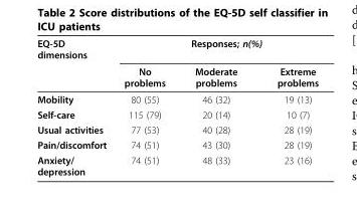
<table><thead><tr><td rowspan="2">EQ-5D dimensions</td><td colspan="3">Responses; n(%)</td></tr><tr><td>No problems</td><td>Moderate problems</td><td>Extreme problems</td></tr></thead><tbody><tr><td>Mobility</td><td>80 (55)</td><td>46 (32)</td><td>19 (13)</td></tr><tr><td>Self-care</td><td>115 (79)</td><td>20 (14)</td><td>10 (7)</td></tr><tr><td>Usual activities</td><td>77 (53)</td><td>40 (28)</td><td>28 (19)</td></tr><tr><td>Pain/discomfort</td><td>74 (51)</td><td>43 (30)</td><td>28 (19)</td></tr><tr><td>Anxiety/ depression</td><td>74 (51)</td><td>48 (33)</td><td>23 (16)</td></tr></tbody></table>